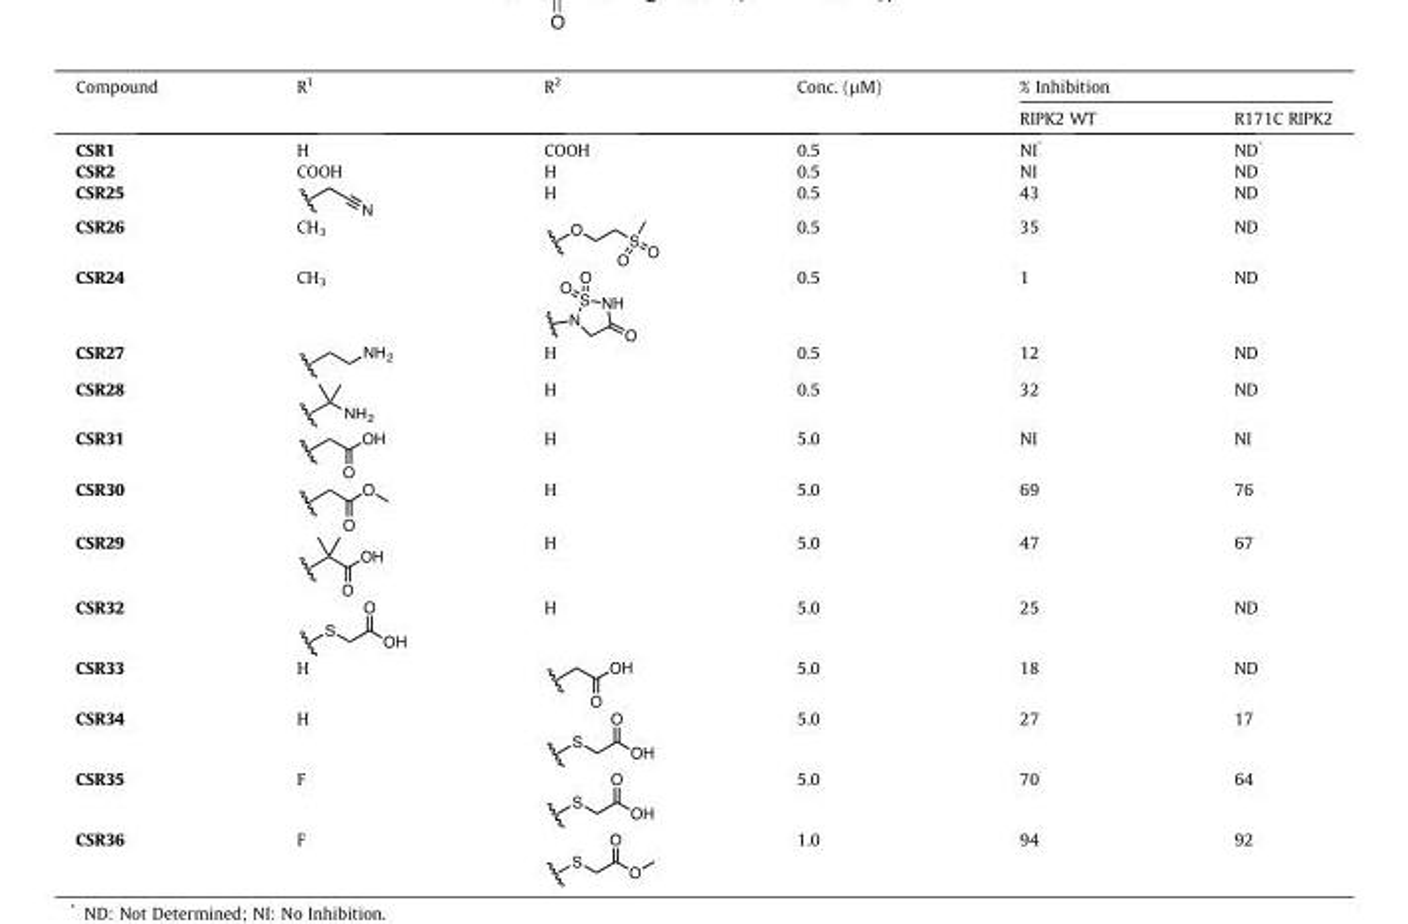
<table><thead><tr><td rowspan="2">Compound</td><td rowspan="2">R<sup>1</sup></td><td rowspan="2">R<sup>2</sup></td><td rowspan="2">Conc. (μM)</td><td colspan="2">% Inhibition</td></tr><tr><td>RIPK2 WT</td><td>R171C RIPK2</td></tr></thead><tbody><tr><td>CSR1</td><td>H</td><td>COOH</td><td>0.5</td><td>NI*</td><td>ND*</td></tr><tr><td>CSR2</td><td>COOH</td><td>H</td><td>0.5</td><td>NI</td><td>ND</td></tr><tr><td>CSR25</td><td></td><td>H</td><td>0.5</td><td>43</td><td>ND</td></tr><tr><td>CSR26</td><td>CH<sub>3</sub></td><td></td><td>0.5</td><td>35</td><td>ND</td></tr><tr><td>CSR24</td><td>CH<sub>3</sub></td><td></td><td>0.5</td><td>1</td><td>ND</td></tr><tr><td>CSR27</td><td></td><td>H</td><td>0.5</td><td>12</td><td>ND</td></tr><tr><td>CSR28</td><td></td><td>H</td><td>0.5</td><td>32</td><td>ND</td></tr><tr><td>CSR31</td><td></td><td>H</td><td>5.0</td><td>NI</td><td>NI</td></tr><tr><td>CSR30</td><td></td><td>H</td><td>5.0</td><td>69</td><td>76</td></tr><tr><td>CSR29</td><td></td><td>H</td><td>5.0</td><td>47</td><td>67</td></tr><tr><td>CSR32</td><td></td><td>H</td><td>5.0</td><td>25</td><td>ND</td></tr><tr><td>CSR33</td><td>H</td><td></td><td>5.0</td><td>18</td><td>ND</td></tr><tr><td>CSR34</td><td>H</td><td></td><td>5.0</td><td>27</td><td>17</td></tr><tr><td>CSR35</td><td>F</td><td></td><td>5.0</td><td>70</td><td>64</td></tr><tr><td>CSR36</td><td>F</td><td></td><td>1.0</td><td>94</td><td>92</td></tr></tbody></table>